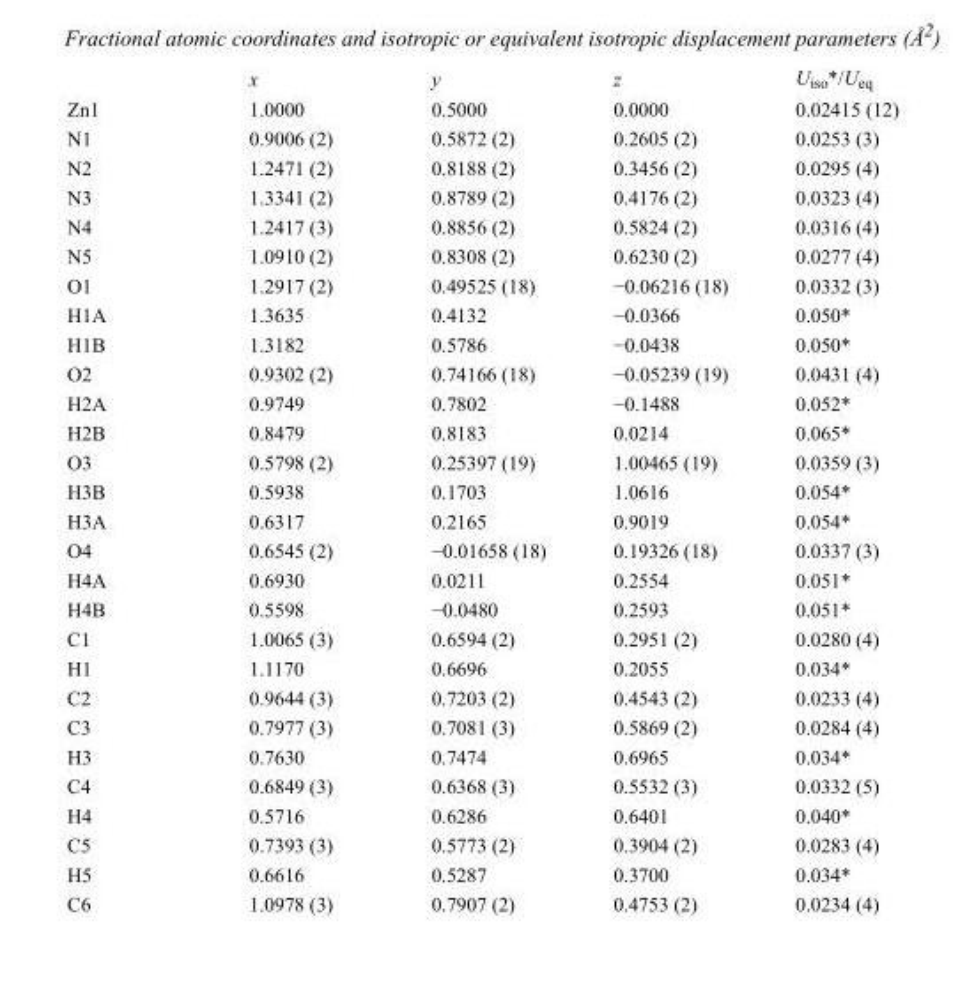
<table><thead><tr><td></td><td>x</td><td>y</td><td>z</td><td>U<sub>iso</sub>*/U<sub>eq</sub></td></tr></thead><tbody><tr><td>Zn1</td><td>1.0000</td><td>0.5000</td><td>0.0000</td><td>0.02415 (12)</td></tr><tr><td>N1</td><td>0.9006 (2)</td><td>0.5872 (2)</td><td>0.2605 (2)</td><td>0.0253 (3)</td></tr><tr><td>N2</td><td>1.2471 (2)</td><td>0.8188 (2)</td><td>0.3456 (2)</td><td>0.0295 (4)</td></tr><tr><td>N3</td><td>1.3341 (2)</td><td>0.8789 (2)</td><td>0.4176 (2)</td><td>0.0323 (4)</td></tr><tr><td>N4</td><td>1.2417 (3)</td><td>0.8856 (2)</td><td>0.5824 (2)</td><td>0.0316 (4)</td></tr><tr><td>N5</td><td>1.0910 (2)</td><td>0.8308 (2)</td><td>0.6230 (2)</td><td>0.0277 (4)</td></tr><tr><td>O1</td><td>1.2917 (2)</td><td>0.49525 (18)</td><td>−0.06216 (18)</td><td>0.0332 (3)</td></tr><tr><td>H1A</td><td>1.3635</td><td>0.4132</td><td>−0.0366</td><td>0.050*</td></tr><tr><td>H1B</td><td>1.3182</td><td>0.5786</td><td>−0.0438</td><td>0.050*</td></tr><tr><td>O2</td><td>0.9302 (2)</td><td>0.74166 (18)</td><td>−0.05239 (19)</td><td>0.0431 (4)</td></tr><tr><td>H2A</td><td>0.9749</td><td>0.7802</td><td>−0.1488</td><td>0.052*</td></tr><tr><td>H2B</td><td>0.8479</td><td>0.8183</td><td>0.0214</td><td>0.065*</td></tr><tr><td>O3</td><td>0.5798 (2)</td><td>0.25397 (19)</td><td>1.00465 (19)</td><td>0.0359 (3)</td></tr><tr><td>H3B</td><td>0.5938</td><td>0.1703</td><td>1.0616</td><td>0.054*</td></tr><tr><td>H3A</td><td>0.6317</td><td>0.2165</td><td>0.9019</td><td>0.054*</td></tr><tr><td>O4</td><td>0.6545 (2)</td><td>−0.01658 (18)</td><td>0.19326 (18)</td><td>0.0337 (3)</td></tr><tr><td>H4A</td><td>0.6930</td><td>0.0211</td><td>0.2554</td><td>0.051*</td></tr><tr><td>H4B</td><td>0.5598</td><td>−0.0480</td><td>0.2593</td><td>0.051*</td></tr><tr><td>C1</td><td>1.0065 (3)</td><td>0.6594 (2)</td><td>0.2951 (2)</td><td>0.0280 (4)</td></tr><tr><td>H1</td><td>1.1170</td><td>0.6696</td><td>0.2055</td><td>0.034*</td></tr><tr><td>C2</td><td>0.9644 (3)</td><td>0.7203 (2)</td><td>0.4543 (2)</td><td>0.0233 (4)</td></tr><tr><td>C3</td><td>0.7977 (3)</td><td>0.7081 (3)</td><td>0.5869 (2)</td><td>0.0284 (4)</td></tr><tr><td>H3</td><td>0.7630</td><td>0.7474</td><td>0.6965</td><td>0.034*</td></tr><tr><td>C4</td><td>0.6849 (3)</td><td>0.6368 (3)</td><td>0.5532 (3)</td><td>0.0332 (5)</td></tr><tr><td>H4</td><td>0.5716</td><td>0.6286</td><td>0.6401</td><td>0.040*</td></tr><tr><td>C5</td><td>0.7393 (3)</td><td>0.5773 (2)</td><td>0.3904 (2)</td><td>0.0283 (4)</td></tr><tr><td>H5</td><td>0.6616</td><td>0.5287</td><td>0.3700</td><td>0.034*</td></tr><tr><td>C6</td><td>1.0978 (3)</td><td>0.7907 (2)</td><td>0.4753 (2)</td><td>0.0234 (4)</td></tr></tbody></table>